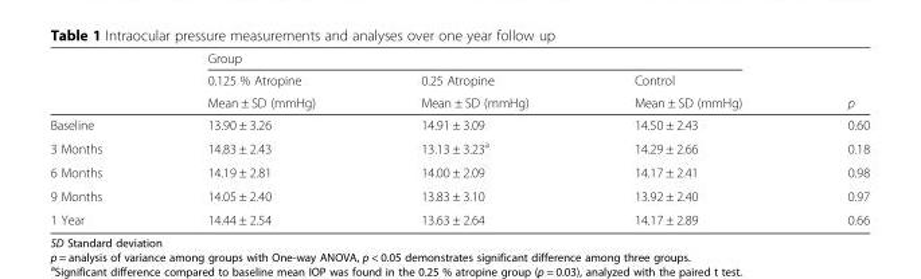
<table><thead><tr><td rowspan="3"></td><td colspan="3">Group</td><td rowspan="3">p</td></tr><tr><td rowspan="2">0.125 % Atropine Mean ± SD (mmHg)</td><td rowspan="2">0.25 Atropine Mean ± SD (mmHg)</td><td rowspan="2">Control Mean ± SD (mmHg)</td></tr><tr></tr></thead><tbody><tr><td>Baseline</td><td>13.90 ± 3.26</td><td>14.91 ± 3.09</td><td>14.50 ± 2.43</td><td>0.60</td></tr><tr><td>3 Months</td><td>14.83 ± 2.43</td><td>13.13 ± 3.23<sup>a</sup></td><td>14.29 ± 2.66</td><td>0.18</td></tr><tr><td>6 Months</td><td>14.19 ± 2.81</td><td>14.00 ± 2.09</td><td>14.17 ± 2.41</td><td>0.98</td></tr><tr><td>9 Months</td><td>14.05 ± 2.40</td><td>13.83 ± 3.10</td><td>13.92 ± 2.40</td><td>0.97</td></tr><tr><td>1 Year</td><td>14.44 ± 2.54</td><td>13.63 ± 2.64</td><td>14.17 ± 2.89</td><td>0.66</td></tr></tbody></table>